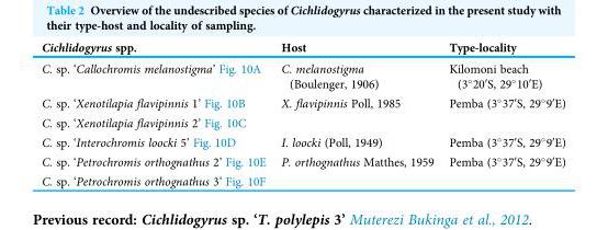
<table><thead><tr><td>Cichlidogyrus spp.</td><td>Host</td><td>Type-locality</td></tr></thead><tbody><tr><td>C. sp. ‘Callochromis melanostigma’ Fig. 10A</td><td>C. melanostigma (Boulenger, 1906)</td><td>Kilomoni beach (3°20′S, 29°10′E)</td></tr><tr><td>C. sp. ‘Xenotilapia flavipinnis 1’ Fig. 10B</td><td>X. flavipinnis Poll, 1985</td><td>Pemba (3°37′S, 29°9′E)</td></tr><tr><td colspan="3">C. sp. ‘Xenotilapia flavipinnis 2’ Fig. 10C</td></tr><tr><td>C. sp. ‘Interochromis loocki 5’ Fig. 10D</td><td>I. loocki (Poll, 1949)</td><td>Pemba (3°37′S, 29°9′E)</td></tr><tr><td>C. sp. ‘Petrochromis orthognathus 2’ Fig. 10E</td><td>P. orthognathus Matthes, 1959</td><td>Pemba (3°37′S, 29°9′E)</td></tr><tr><td>C. sp. ‘Petrochromis orthognathus 3’ Fig. 10F</td><td></td><td></td></tr></tbody></table>